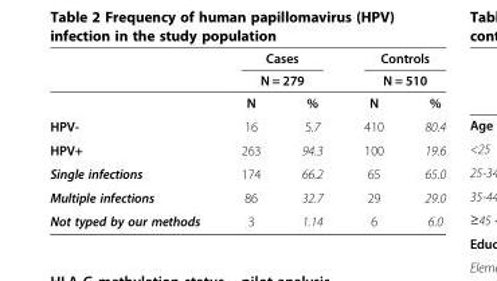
<table><thead><tr><td rowspan="3"></td><td rowspan="2" colspan="2">Cases N = 279</td><td rowspan="2" colspan="2">Controls N = 510</td></tr><tr></tr><tr><td>N</td><td>%</td><td>N</td><td>%</td></tr></thead><tbody><tr><td>HPV-</td><td>16</td><td>5.7</td><td>410</td><td>80.4</td></tr><tr><td>HPV+</td><td>263</td><td>94.3</td><td>100</td><td>19.6</td></tr><tr><td>Single infections</td><td>174</td><td>66.2</td><td>65</td><td>65.0</td></tr><tr><td>Multiple infections</td><td>86</td><td>32.7</td><td>29</td><td>29.0</td></tr><tr><td>Not typed by our methods</td><td>3</td><td>1.14</td><td>6</td><td>6.0</td></tr></tbody></table>